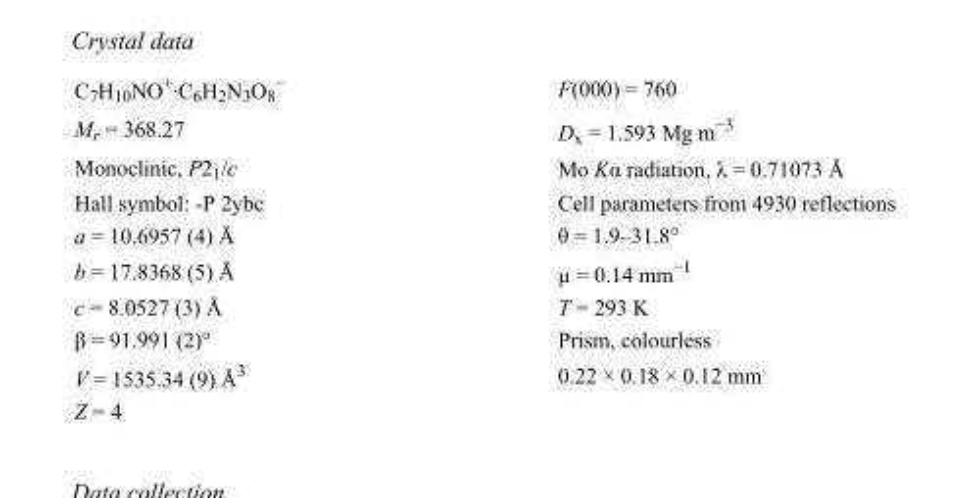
<table><tbody><tr><td>C<sub>7</sub>H<sub>10</sub>NO<sup>+</sup>·C<sub>6</sub>H<sub>2</sub>N<sub>3</sub>O<sub>8</sub> <sup>−</sup></td><td>F(000) = 760</td></tr><tr><td>M<sub>r</sub> = 368.27</td><td>D<sub>x</sub> = 1.593 Mg m<sup>−3</sup></td></tr><tr><td>Monoclinic, P2<sub>1</sub>/c</td><td>Mo Kα radiation, λ = 0.71073 Å</td></tr><tr><td>Hall symbol: -P 2ybc</td><td>Cell parameters from 4930 reflections</td></tr><tr><td>a = 10.6957 (4) Å</td><td>θ = 1.9–31.8°</td></tr><tr><td>b = 17.8368 (5) Å</td><td>µ = 0.14 mm<sup>−1</sup></td></tr><tr><td>c = 8.0527 (3) Å</td><td>T = 293 K</td></tr><tr><td>β = 91.991 (2)°</td><td>Prism, colourless</td></tr><tr><td>V = 1535.34 (9) Å<sup>3</sup></td><td>0.22 × 0.18 × 0.12 mm</td></tr><tr><td>Z = 4</td><td></td></tr></tbody></table>